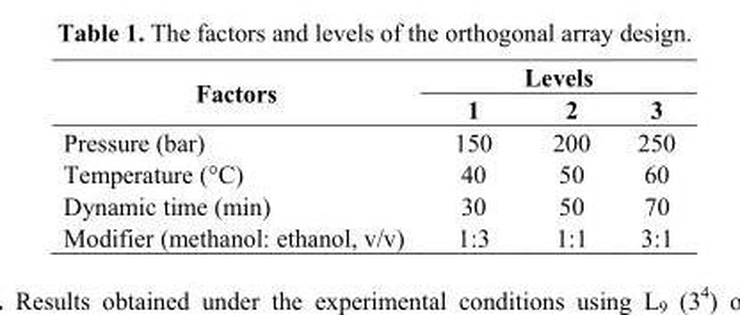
<table><thead><tr><td rowspan="2">Factors</td><td colspan="3">Levels</td></tr><tr><td>1</td><td>2</td><td>3</td></tr></thead><tbody><tr><td>Pressure (bar)</td><td>150</td><td>200</td><td>250</td></tr><tr><td>Temperature (°C)</td><td>40</td><td>50</td><td>60</td></tr><tr><td>Dynamic time (min)</td><td>30</td><td>50</td><td>70</td></tr><tr><td>Modifier (methanol: ethanol, v/v)</td><td>1:3</td><td>1:1</td><td>3:1</td></tr></tbody></table>